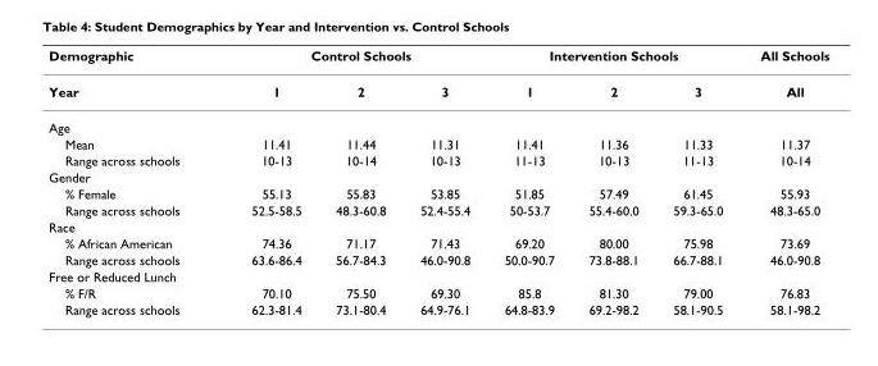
<table><thead><tr><td rowspan="2">Demographic Year</td><td colspan="3">Control Schools</td><td colspan="3">Intervention Schools</td><td rowspan="2">All Schools All</td></tr><tr><td>1</td><td>2</td><td>3</td><td>1</td><td>2</td><td>3</td></tr></thead><tbody><tr><td colspan="8">Age</td></tr><tr><td>Mean</td><td>11.41</td><td>11.44</td><td>11.31</td><td>11.41</td><td>11.36</td><td>11.33</td><td>11.37</td></tr><tr><td>Range across schools</td><td>10-13</td><td>10-14</td><td>10-13</td><td>11-13</td><td>10-13</td><td>11-13</td><td>10-14</td></tr><tr><td colspan="8">Gender</td></tr><tr><td>% Female</td><td>55.13</td><td>55.83</td><td>53.85</td><td>51.85</td><td>57.49</td><td>61.45</td><td>55.93</td></tr><tr><td>Range across schools</td><td>52.5-58.5</td><td>48.3-60.8</td><td>52.4-55.4</td><td>50-53.7</td><td>55.4-60.0</td><td>59.3-65.0</td><td>48.3-65.0</td></tr><tr><td colspan="8">Race</td></tr><tr><td>% African American</td><td>74.36</td><td>71.17</td><td>71.43</td><td>69.20</td><td>80.00</td><td>75.98</td><td>73.69</td></tr><tr><td>Range across schools</td><td>63.6-86.4</td><td>56.7-84.3</td><td>46.0-90.8</td><td>50.0-90.7</td><td>73.8-88.1</td><td>66.7-88.1</td><td>46.0-90.8</td></tr><tr><td colspan="8">Free or Reduced Lunch</td></tr><tr><td>% F/R</td><td>70.10</td><td>75.50</td><td>69.30</td><td>85.8</td><td>81.30</td><td>79.00</td><td>76.83</td></tr><tr><td>Range across schools</td><td>62.3-81.4</td><td>73.1-80.4</td><td>64.9-76.1</td><td>64.8-83.9</td><td>69.2-98.2</td><td>58.1-90.5</td><td>58.1-98.2</td></tr></tbody></table>